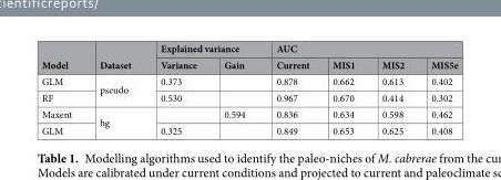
<table><thead><tr><td rowspan="2">Model</td><td rowspan="2">Dataset</td><td colspan="2">Explained variance</td><td colspan="4">AUC</td></tr><tr><td>Variance</td><td>Gain</td><td>Current</td><td>MIS1</td><td>MIS2</td><td>MIS5e</td></tr></thead><tbody><tr><td>GLM</td><td rowspan="2">pseudo</td><td>0.373</td><td></td><td>0.878</td><td>0.662</td><td>0.613</td><td>0.402</td></tr><tr><td>RF</td><td>0.530</td><td></td><td>0.967</td><td>0.670</td><td>0.414</td><td>0.302</td></tr><tr><td>Maxent</td><td rowspan="2">bg</td><td></td><td>0.594</td><td>0.836</td><td>0.634</td><td>0.598</td><td>0.462</td></tr><tr><td>GLM</td><td>0.325</td><td></td><td>0.849</td><td>0.653</td><td>0.625</td><td>0.408</td></tr></tbody></table>